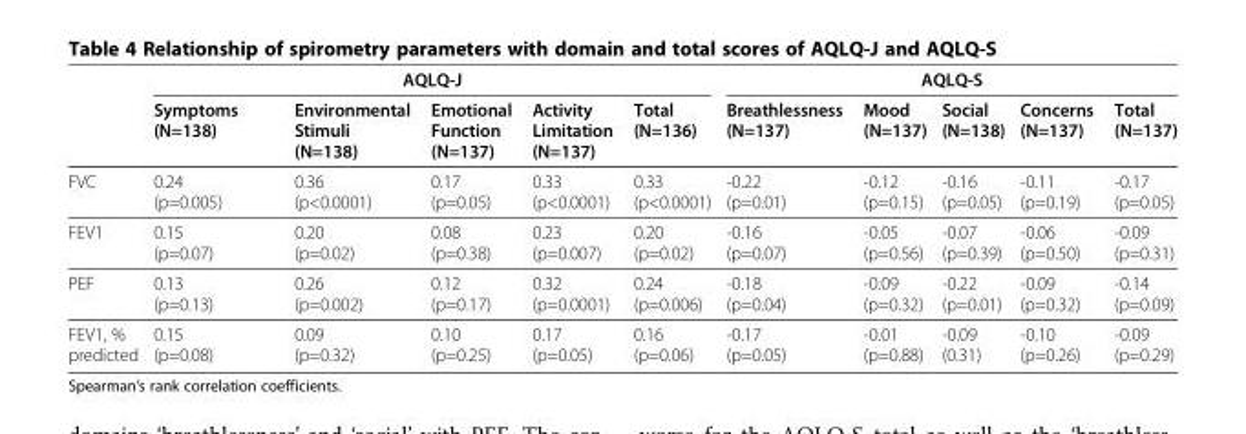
<table><thead><tr><td rowspan="2"></td><td colspan="5">AQLQ-J</td><td colspan="5">AQLQ-S</td></tr><tr><td>Symptoms (N=138)</td><td>Environmental Stimuli (N=138)</td><td>Emotional Function (N=137)</td><td>Activity Limitation (N=137)</td><td>Total (N=136)</td><td>Breathlessness (N=137)</td><td>Mood (N=137)</td><td>Social (N=138)</td><td>Concerns (N=137)</td><td>Total (N=137)</td></tr></thead><tbody><tr><td>FVC</td><td>0.24 (p=0.005)</td><td>0.36 (p&lt;0.0001)</td><td>0.17 (p=0.05)</td><td>0.33 (p&lt;0.0001)</td><td>0.33 (p&lt;0.0001)</td><td>-0.22 (p=0.01)</td><td>-0.12 (p=0.15)</td><td>-0.16 (p=0.05)</td><td>-0.11 (p=0.19)</td><td>-0.17 (p=0.05)</td></tr><tr><td>FEV1</td><td>0.15 (p=0.07)</td><td>0.20 (p=0.02)</td><td>0.08 (p=0.38)</td><td>0.23 (p=0.007)</td><td>0.20 (p=0.02)</td><td>-0.16 (p=0.07)</td><td>-0.05 (p=0.56)</td><td>-0.07 (p=0.39)</td><td>-0.06 (p=0.50)</td><td>-0.09 (p=0.31)</td></tr><tr><td>PEF</td><td>0.13 (p=0.13)</td><td>0.26 (p=0.002)</td><td>0.12 (p=0.17)</td><td>0.32 (p=0.0001)</td><td>0.24 (p=0.006)</td><td>-0.18 (p=0.04)</td><td>-0.09 (p=0.32)</td><td>-0.22 (p=0.01)</td><td>-0.09 (p=0.32)</td><td>-0.14 (p=0.09)</td></tr><tr><td>FEV1, % predicted</td><td>0.15 (p=0.08)</td><td>0.09 (p=0.32)</td><td>0.10 (p=0.25)</td><td>0.17 (p=0.05)</td><td>0.16 (p=0.06)</td><td>-0.17 (p=0.05)</td><td>-0.01 (p=0.88)</td><td>-0.09 (0.31)</td><td>-0.10 (p=0.26)</td><td>-0.09 (p=0.29)</td></tr></tbody></table>